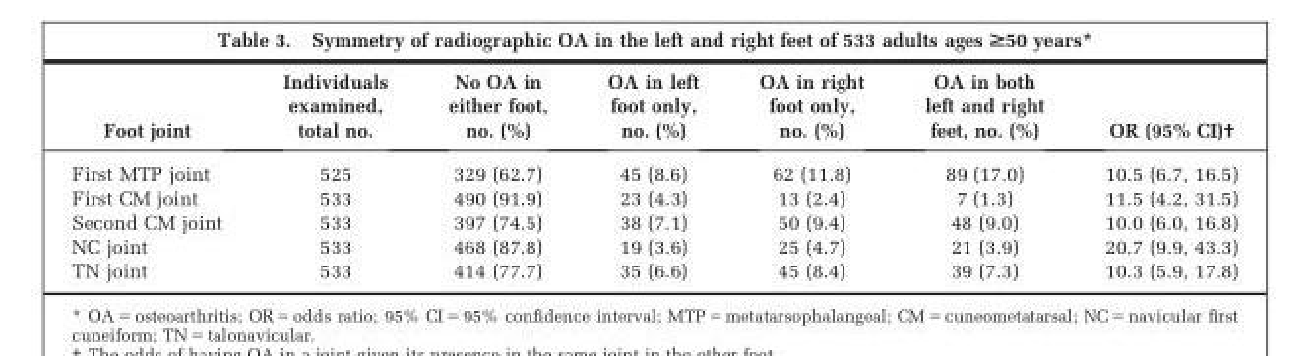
<table><thead><tr><td>Foot joint</td><td>Individuals examined, total no.</td><td>No OA in either foot, no. (%)</td><td>OA in left foot only, no. (%)</td><td>OA in right foot only, no. (%)</td><td>OA in both left and right feet, no. (%)</td><td>OR (95% CI)†</td></tr></thead><tbody><tr><td>First MTP joint</td><td>525</td><td>329 (62.7)</td><td>45 (8.6)</td><td>62 (11.8)</td><td>89 (17.0)</td><td>10.5 (6.7, 16.5)</td></tr><tr><td>First CM joint</td><td>533</td><td>490 (91.9)</td><td>23 (4.3)</td><td>13 (2.4)</td><td>7 (1.3)</td><td>11.5 (4.2, 31.5)</td></tr><tr><td>Second CM joint</td><td>533</td><td>397 (74.5)</td><td>38 (7.1)</td><td>50 (9.4)</td><td>48 (9.0)</td><td>10.0 (6.0, 16.8)</td></tr><tr><td>NC joint</td><td>533</td><td>468 (87.8)</td><td>19 (3.6)</td><td>25 (4.7)</td><td>21 (3.9)</td><td>20.7 (9.9, 43.3)</td></tr><tr><td>TN joint</td><td>533</td><td>414 (77.7)</td><td>35 (6.6)</td><td>45 (8.4)</td><td>39 (7.3)</td><td>10.3 (5.9, 17.8)</td></tr></tbody></table>